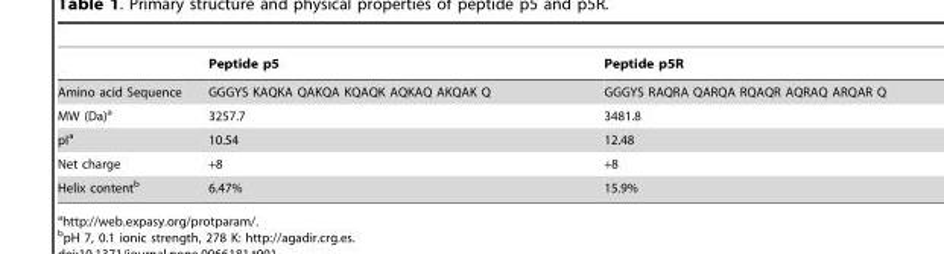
<table><thead><tr><td></td><td>Peptide p5</td><td>Peptide p5R</td></tr></thead><tbody><tr><td>Amino acid Sequence</td><td>GGGYS KAQKA QAKQA KQAQK AQKAQ AKQAK Q</td><td>GGGYS RAQRA QARQA RQAQR AQRAQ ARQAR Q</td></tr><tr><td>MW (Da)<sup>a</sup></td><td>3257.7</td><td>3481.8</td></tr><tr><td>pI<sup>a</sup></td><td>10.54</td><td>12.48</td></tr><tr><td>Net charge</td><td>+8</td><td>+8</td></tr><tr><td>Helix content<sup>b</sup></td><td>6.47%</td><td>15.9%</td></tr></tbody></table>